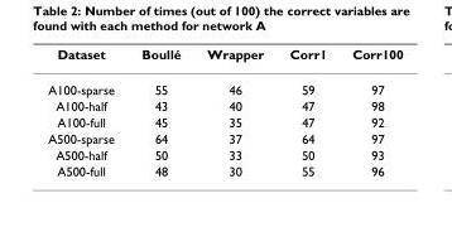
<table><thead><tr><td>Dataset</td><td>Boullé</td><td>Wrapper</td><td>Corr1</td><td>Corr100</td></tr></thead><tbody><tr><td>A100-sparse</td><td>55</td><td>46</td><td>59</td><td>97</td></tr><tr><td>A100-half</td><td>43</td><td>40</td><td>47</td><td>98</td></tr><tr><td>A100-full</td><td>45</td><td>35</td><td>47</td><td>92</td></tr><tr><td>A500-sparse</td><td>64</td><td>37</td><td>64</td><td>97</td></tr><tr><td>A500-half</td><td>50</td><td>33</td><td>50</td><td>93</td></tr><tr><td>A500-full</td><td>48</td><td>30</td><td>55</td><td>96</td></tr></tbody></table>